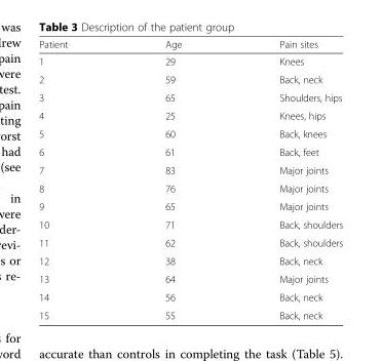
<table><thead><tr><td>Patient</td><td>Age</td><td>Pain sites</td></tr></thead><tbody><tr><td>1</td><td>29</td><td>Knees</td></tr><tr><td>2</td><td>59</td><td>Back, neck</td></tr><tr><td>3</td><td>65</td><td>Shoulders, hips</td></tr><tr><td>4</td><td>25</td><td>Knees, hips</td></tr><tr><td>5</td><td>60</td><td>Back, knees</td></tr><tr><td>6</td><td>61</td><td>Back, feet</td></tr><tr><td>7</td><td>83</td><td>Major joints</td></tr><tr><td>8</td><td>76</td><td>Major joints</td></tr><tr><td>9</td><td>65</td><td>Major joints</td></tr><tr><td>10</td><td>71</td><td>Back, shoulders</td></tr><tr><td>11</td><td>62</td><td>Back, shoulders</td></tr><tr><td>12</td><td>38</td><td>Back, neck</td></tr><tr><td>13</td><td>64</td><td>Major joints</td></tr><tr><td>14</td><td>56</td><td>Back, neck</td></tr><tr><td>15</td><td>55</td><td>Back, neck</td></tr></tbody></table>